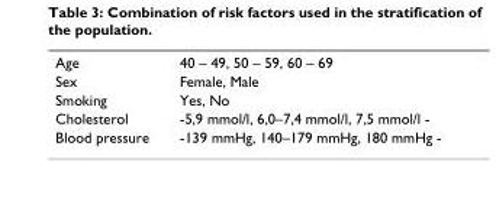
<table><tbody><tr><td>Age</td><td>40 – 49, 50 – 59, 60 – 69</td></tr><tr><td>Sex</td><td>Female, Male</td></tr><tr><td>Smoking</td><td>Yes, No</td></tr><tr><td>Cholesterol</td><td>-5,9 mmol/l, 6,0–7,4 mmol/l, 7,5 mmol/l -</td></tr><tr><td>Blood pressure</td><td>-139 mmHg, 140–179 mmHg, 180 mmHg -</td></tr></tbody></table>